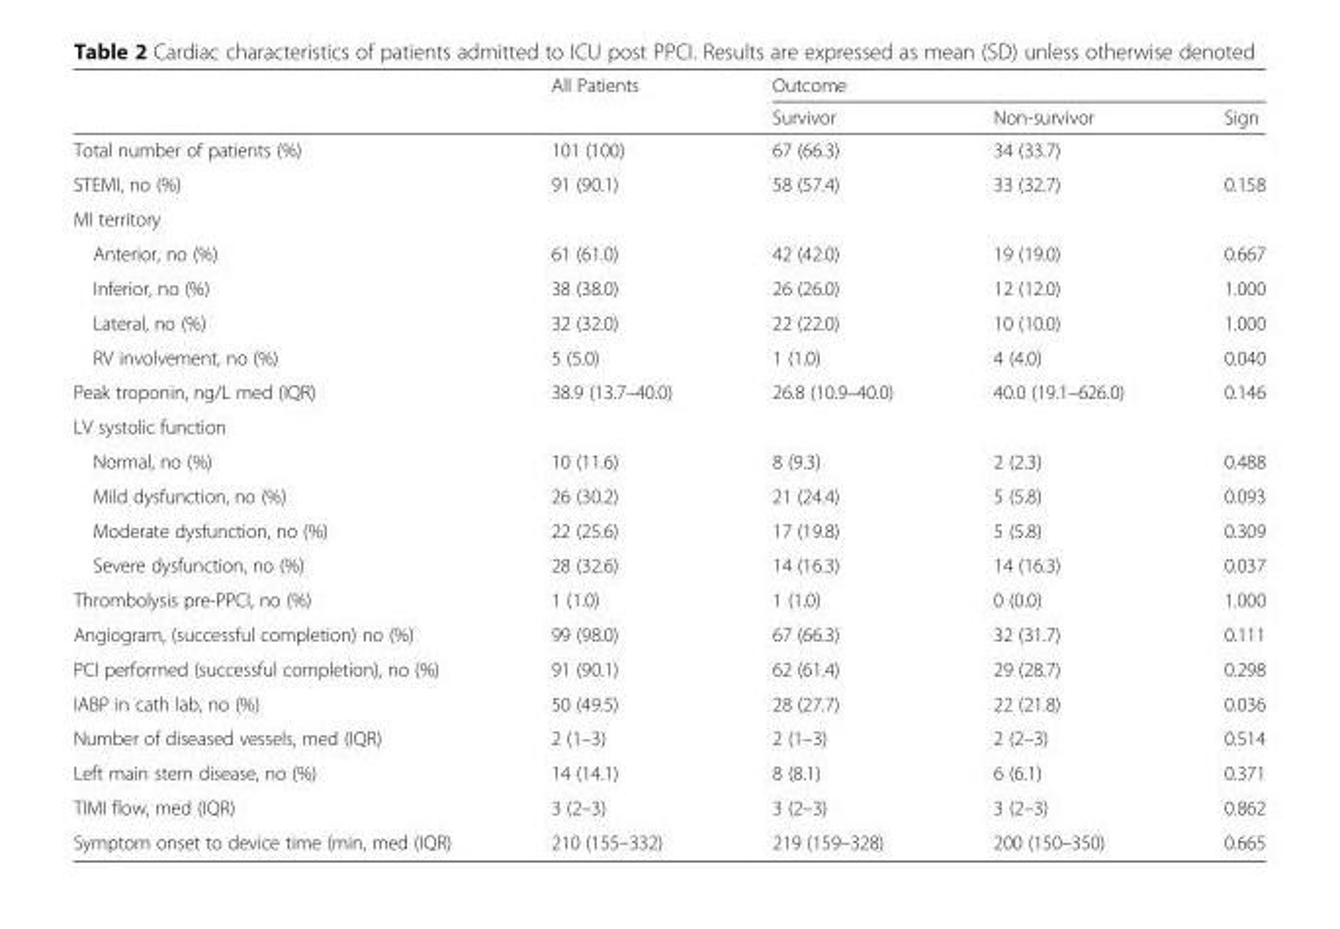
<table><thead><tr><td rowspan="2"></td><td rowspan="2">All Patients</td><td colspan="3">Outcome</td></tr><tr><td>Survivor</td><td>Non-survivor</td><td>Sign</td></tr></thead><tbody><tr><td>Total number of patients (%)</td><td>101 (100)</td><td>67 (66.3)</td><td>34 (33.7)</td><td></td></tr><tr><td>STEMI, no (%)</td><td>91 (90.1)</td><td>58 (57.4)</td><td>33 (32.7)</td><td>0.158</td></tr><tr><td colspan="5">MI territory</td></tr><tr><td>Anterior, no (%)</td><td>61 (61.0)</td><td>42 (42.0)</td><td>19 (19.0)</td><td>0.667</td></tr><tr><td>Inferior, no (%)</td><td>38 (38.0)</td><td>26 (26.0)</td><td>12 (12.0)</td><td>1.000</td></tr><tr><td>Lateral, no (%)</td><td>32 (32.0)</td><td>22 (22.0)</td><td>10 (10.0)</td><td>1.000</td></tr><tr><td>RV involvement, no (%)</td><td>5 (5.0)</td><td>1 (1.0)</td><td>4 (4.0)</td><td>0.040</td></tr><tr><td>Peak troponin, ng/L med (IQR)</td><td>38.9 (13.7–40.0)</td><td>26.8 (10.9–40.0)</td><td>40.0 (19.1–626.0)</td><td>0.146</td></tr><tr><td colspan="5">LV systolic function</td></tr><tr><td>Normal, no (%)</td><td>10 (11.6)</td><td>8 (9.3)</td><td>2 (2.3)</td><td>0.488</td></tr><tr><td>Mild dysfunction, no (%)</td><td>26 (30.2)</td><td>21 (24.4)</td><td>5 (5.8)</td><td>0.093</td></tr><tr><td>Moderate dysfunction, no (%)</td><td>22 (25.6)</td><td>17 (19.8)</td><td>5 (5.8)</td><td>0.309</td></tr><tr><td>Severe dysfunction, no (%)</td><td>28 (32.6)</td><td>14 (16.3)</td><td>14 (16.3)</td><td>0.037</td></tr><tr><td>Thrombolysis pre-PPCI, no (%)</td><td>1 (1.0)</td><td>1 (1.0)</td><td>0 (0.0)</td><td>1.000</td></tr><tr><td>Angiogram, (successful completion) no (%)</td><td>99 (98.0)</td><td>67 (66.3)</td><td>32 (31.7)</td><td>0.111</td></tr><tr><td>PCI performed (successful completion), no (%)</td><td>91 (90.1)</td><td>62 (61.4)</td><td>29 (28.7)</td><td>0.298</td></tr><tr><td>IABP in cath lab, no (%)</td><td>50 (49.5)</td><td>28 (27.7)</td><td>22 (21.8)</td><td>0.036</td></tr><tr><td>Number of diseased vessels, med (IQR)</td><td>2 (1–3)</td><td>2 (1–3)</td><td>2 (2–3)</td><td>0.514</td></tr><tr><td>Left main stem disease, no (%)</td><td>14 (14.1)</td><td>8 (8.1)</td><td>6 (6.1)</td><td>0.371</td></tr><tr><td>TIMI flow, med (IQR)</td><td>3 (2–3)</td><td>3 (2–3)</td><td>3 (2–3)</td><td>0.862</td></tr><tr><td>Symptom onset to device time (min, med (IQR)</td><td>210 (155–332)</td><td>219 (159–328)</td><td>200 (150–350)</td><td>0.665</td></tr></tbody></table>